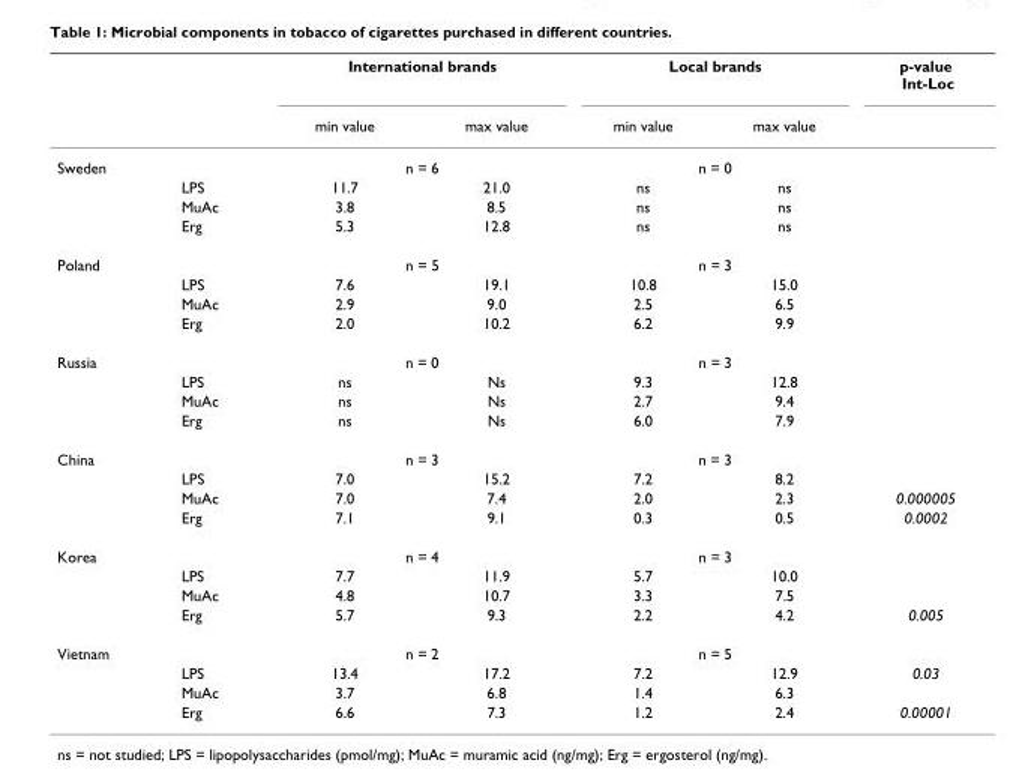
<table><thead><tr><td rowspan="2"></td><td rowspan="2"></td><td colspan="2">International brands</td><td colspan="2">Local brands</td><td rowspan="2">p-value Int-Loc</td></tr><tr><td>min value</td><td>max value</td><td>min value</td><td>max value</td></tr></thead><tbody><tr><td rowspan="4">Sweden</td><td></td><td colspan="2">n = 6</td><td colspan="2">n = 0</td><td></td></tr><tr><td>LPS</td><td>11.7</td><td>21.0</td><td>ns</td><td>ns</td><td></td></tr><tr><td>MuAc</td><td>3.8</td><td>8.5</td><td>ns</td><td>ns</td><td></td></tr><tr><td>Erg</td><td>5.3</td><td>12.8</td><td>ns</td><td>ns</td><td></td></tr><tr><td rowspan="4">Poland</td><td></td><td colspan="2">n = 5</td><td colspan="2">n = 3</td><td></td></tr><tr><td>LPS</td><td>7.6</td><td>19.1</td><td>10.8</td><td>15.0</td><td></td></tr><tr><td>MuAc</td><td>2.9</td><td>9.0</td><td>2.5</td><td>6.5</td><td></td></tr><tr><td>Erg</td><td>2.0</td><td>10.2</td><td>6.2</td><td>9.9</td><td></td></tr><tr><td rowspan="4">Russia</td><td></td><td colspan="2">n = 0</td><td colspan="2">n = 3</td><td></td></tr><tr><td>LPS</td><td>ns</td><td>Ns</td><td>9.3</td><td>12.8</td><td></td></tr><tr><td>MuAc</td><td>ns</td><td>Ns</td><td>2.7</td><td>9.4</td><td></td></tr><tr><td>Erg</td><td>ns</td><td>Ns</td><td>6.0</td><td>7.9</td><td></td></tr><tr><td rowspan="4">China</td><td></td><td colspan="2">n = 3</td><td colspan="2">n = 3</td><td></td></tr><tr><td>LPS</td><td>7.0</td><td>15.2</td><td>7.2</td><td>8.2</td><td></td></tr><tr><td>MuAc</td><td>7.0</td><td>7.4</td><td>2.0</td><td>2.3</td><td>0.000005</td></tr><tr><td>Erg</td><td>7.1</td><td>9.1</td><td>0.3</td><td>0.5</td><td>0.0002</td></tr><tr><td rowspan="4">Korea</td><td></td><td colspan="2">n = 4</td><td colspan="2">n = 3</td><td></td></tr><tr><td>LPS</td><td>7.7</td><td>11.9</td><td>5.7</td><td>10.0</td><td></td></tr><tr><td>MuAc</td><td>4.8</td><td>10.7</td><td>3.3</td><td>7.5</td><td></td></tr><tr><td>Erg</td><td>5.7</td><td>9.3</td><td>2.2</td><td>4.2</td><td>0.005</td></tr><tr><td rowspan="4">Vietnam</td><td></td><td colspan="2">n = 2</td><td colspan="2">n = 5</td><td></td></tr><tr><td>LPS</td><td>13.4</td><td>17.2</td><td>7.2</td><td>12.9</td><td>0.03</td></tr><tr><td>MuAc</td><td>3.7</td><td>6.8</td><td>1.4</td><td>6.3</td><td></td></tr><tr><td>Erg</td><td>6.6</td><td>7.3</td><td>1.2</td><td>2.4</td><td>0.00001</td></tr></tbody></table>